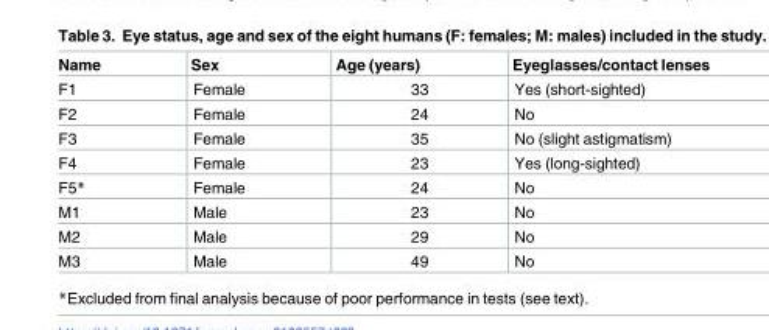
<table><thead><tr><td>Name</td><td>Sex</td><td>Age (years)</td><td>Eyeglasses/contact lenses</td></tr></thead><tbody><tr><td>F1</td><td>Female</td><td>33</td><td>Yes (short-sighted)</td></tr><tr><td>F2</td><td>Female</td><td>24</td><td>No</td></tr><tr><td>F3</td><td>Female</td><td>35</td><td>No (slight astigmatism)</td></tr><tr><td>F4</td><td>Female</td><td>23</td><td>Yes (long-sighted)</td></tr><tr><td>F5*</td><td>Female</td><td>24</td><td>No</td></tr><tr><td>M1</td><td>Male</td><td>23</td><td>No</td></tr><tr><td>M2</td><td>Male</td><td>29</td><td>No</td></tr><tr><td>M3</td><td>Male</td><td>49</td><td>No</td></tr></tbody></table>